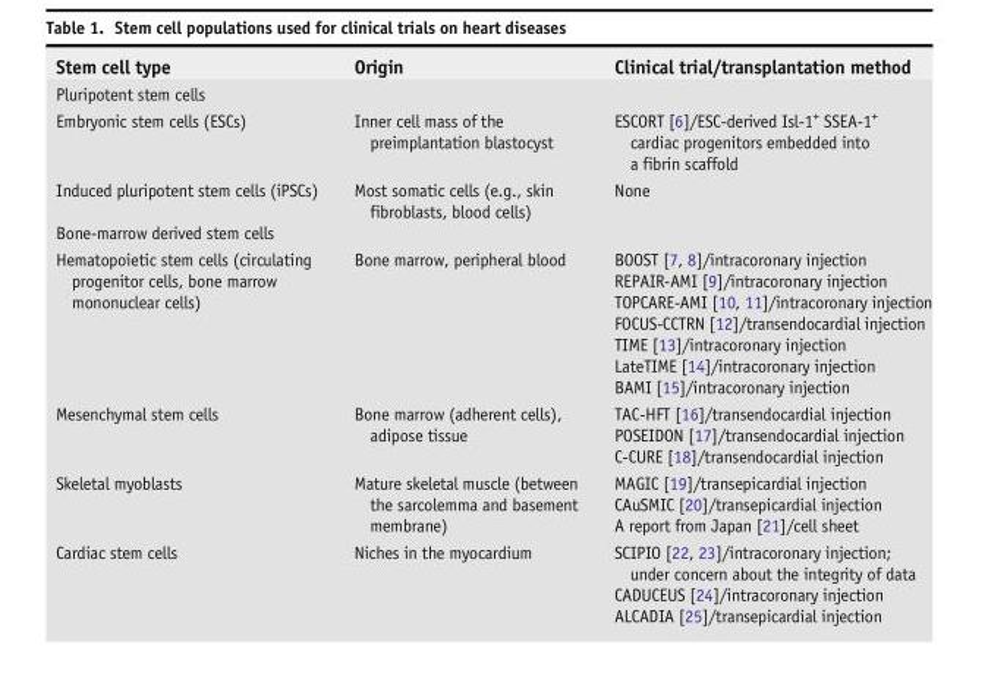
<table><thead><tr><td>Stem cell type</td><td>Origin</td><td>Clinical trial/transplantation method</td></tr></thead><tbody><tr><td colspan="3">Pluripotent stem cells</td></tr><tr><td>Embryonic stem cells (ESCs)</td><td>Inner cell mass of the preimplantation blastocyst</td><td>ESCORT [6]/ESC-derived Isl-1<sup>+</sup> SSEA-1<sup>+</sup> cardiac progenitors embedded into a fibrin scaffold</td></tr><tr><td>Induced pluripotent stem cells (iPSCs)</td><td>Most somatic cells (e.g., skin fibroblasts, blood cells)</td><td>None</td></tr><tr><td colspan="3">Bone-marrow derived stem cells</td></tr><tr><td>Hematopoietic stem cells (circulating progenitor cells, bone marrow mononuclear cells)</td><td>Bone marrow, peripheral blood</td><td>BOOST [7, 8]/intracoronary injection REPAIR-AMI [9]/intracoronary injection TOPCARE-AMI [10, 11]/intracoronary injection FOCUS-CCTRN [12]/transendocardial injection TIME [13]/intracoronary injection LateTIME [14]/intracoronary injection BAMI [15]/intracoronary injection</td></tr><tr><td>Mesenchymal stem cells</td><td>Bone marrow (adherent cells), adipose tissue</td><td>TAC-HFT [16]/transendocardial injection POSEIDON [17]/transendocardial injection C-CURE [18]/transendocardial injection</td></tr><tr><td>Skeletal myoblasts</td><td>Mature skeletal muscle (between the sarcolemma and basement membrane)</td><td>MAGIC [19]/transepicardial injection CAuSMIC [20]/transepicardial injection A report from Japan [21]/cell sheet</td></tr><tr><td>Cardiac stem cells</td><td>Niches in the myocardium</td><td>SCIPIO [22, 23]/intracoronary injection; under concern about the integrity of data CADUCEUS [24]/intracoronary injection ALCADIA [25]/transepicardial injection</td></tr></tbody></table>